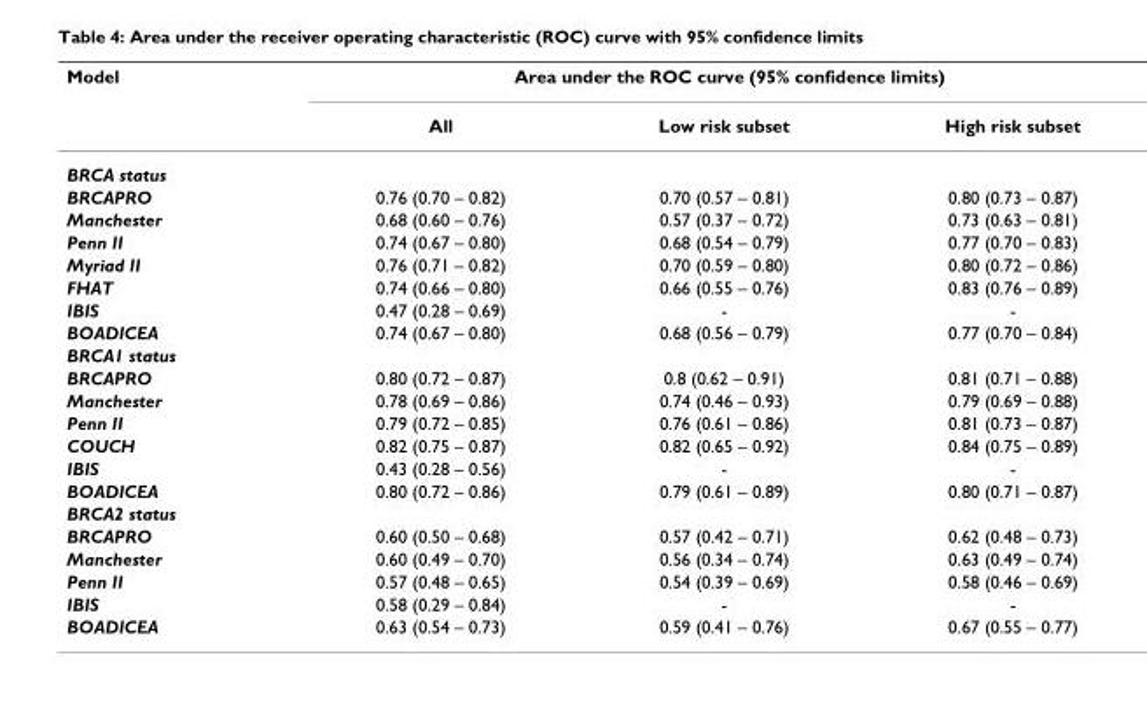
<table><thead><tr><td rowspan="2">Model</td><td colspan="3">Area under the ROC curve (95% confidence limits)</td></tr><tr><td>All</td><td>Low risk subset</td><td>High risk subset</td></tr></thead><tbody><tr><td colspan="4">BRCA status</td></tr><tr><td>BRCAPRO</td><td>0.76 (0.70 – 0.82)</td><td>0.70 (0.57 – 0.81)</td><td>0.80 (0.73 – 0.87)</td></tr><tr><td>Manchester</td><td>0.68 (0.60 – 0.76)</td><td>0.57 (0.37 – 0.72)</td><td>0.73 (0.63 – 0.81)</td></tr><tr><td>Penn II</td><td>0.74 (0.67 – 0.80)</td><td>0.68 (0.54 – 0.79)</td><td>0.77 (0.70 – 0.83)</td></tr><tr><td>Myriad II</td><td>0.76 (0.71 – 0.82)</td><td>0.70 (0.59 – 0.80)</td><td>0.80 (0.72 – 0.86)</td></tr><tr><td>FHAT</td><td>0.74 (0.66 – 0.80)</td><td>0.66 (0.55 – 0.76)</td><td>0.83 (0.76 – 0.89)</td></tr><tr><td>IBIS</td><td>0.47 (0.28 – 0.69)</td><td>-</td><td>-</td></tr><tr><td>BOADICEA</td><td>0.74 (0.67 – 0.80)</td><td>0.68 (0.56 – 0.79)</td><td>0.77 (0.70 – 0.84)</td></tr><tr><td colspan="4">BRCA1 status</td></tr><tr><td>BRCAPRO</td><td>0.80 (0.72 – 0.87)</td><td>0.8 (0.62 – 0.91)</td><td>0.81 (0.71 – 0.88)</td></tr><tr><td>Manchester</td><td>0.78 (0.69 – 0.86)</td><td>0.74 (0.46 – 0.93)</td><td>0.79 (0.69 – 0.88)</td></tr><tr><td>Penn II</td><td>0.79 (0.72 – 0.85)</td><td>0.76 (0.61 – 0.86)</td><td>0.81 (0.73 – 0.87)</td></tr><tr><td>COUCH</td><td>0.82 (0.75 – 0.87)</td><td>0.82 (0.65 – 0.92)</td><td>0.84 (0.75 – 0.89)</td></tr><tr><td>IBIS</td><td>0.43 (0.28 – 0.56)</td><td>-</td><td>-</td></tr><tr><td>BOADICEA</td><td>0.80 (0.72 – 0.86)</td><td>0.79 (0.61 – 0.89)</td><td>0.80 (0.71 – 0.87)</td></tr><tr><td colspan="4">BRCA2 status</td></tr><tr><td>BRCAPRO</td><td>0.60 (0.50 – 0.68)</td><td>0.57 (0.42 – 0.71)</td><td>0.62 (0.48 – 0.73)</td></tr><tr><td>Manchester</td><td>0.60 (0.49 – 0.70)</td><td>0.56 (0.34 – 0.74)</td><td>0.63 (0.49 – 0.74)</td></tr><tr><td>Penn II</td><td>0.57 (0.48 – 0.65)</td><td>0.54 (0.39 – 0.69)</td><td>0.58 (0.46 – 0.69)</td></tr><tr><td>IBIS</td><td>0.58 (0.29 – 0.84)</td><td>-</td><td>-</td></tr><tr><td>BOADICEA</td><td>0.63 (0.54 – 0.73)</td><td>0.59 (0.41 – 0.76)</td><td>0.67 (0.55 – 0.77)</td></tr></tbody></table>